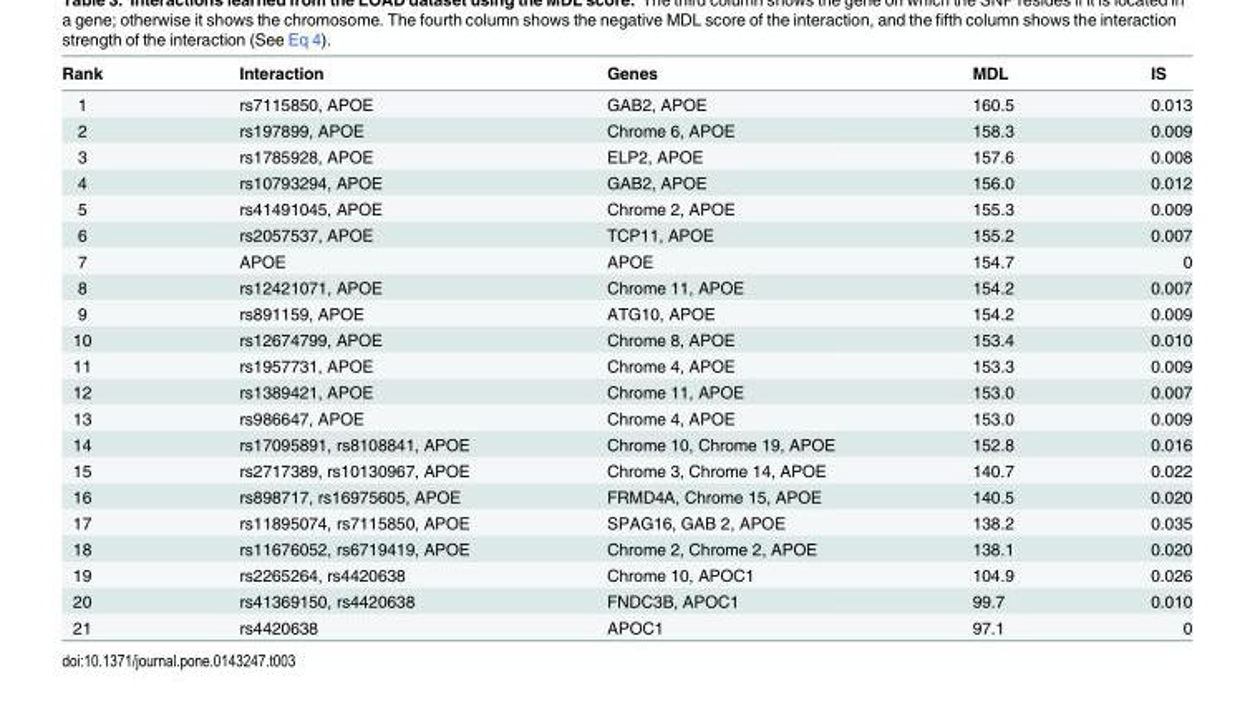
<table><thead><tr><td>Rank</td><td>Interaction</td><td>Genes</td><td>MDL</td><td>IS</td></tr></thead><tbody><tr><td>1</td><td>rs7115850, APOE</td><td>GAB2, APOE</td><td>160.5</td><td>0.013</td></tr><tr><td>2</td><td>rs197899, APOE</td><td>Chrome 6, APOE</td><td>158.3</td><td>0.009</td></tr><tr><td>3</td><td>rs1785928, APOE</td><td>ELP2, APOE</td><td>157.6</td><td>0.008</td></tr><tr><td>4</td><td>rs10793294, APOE</td><td>GAB2, APOE</td><td>156.0</td><td>0.012</td></tr><tr><td>5</td><td>rs41491045, APOE</td><td>Chrome 2, APOE</td><td>155.3</td><td>0.009</td></tr><tr><td>6</td><td>rs2057537, APOE</td><td>TCP11, APOE</td><td>155.2</td><td>0.007</td></tr><tr><td>7</td><td>APOE</td><td>APOE</td><td>154.7</td><td>0</td></tr><tr><td>8</td><td>rs12421071, APOE</td><td>Chrome 11, APOE</td><td>154.2</td><td>0.007</td></tr><tr><td>9</td><td>rs891159, APOE</td><td>ATG10, APOE</td><td>154.2</td><td>0.009</td></tr><tr><td>10</td><td>rs12674799, APOE</td><td>Chrome 8, APOE</td><td>153.4</td><td>0.010</td></tr><tr><td>11</td><td>rs1957731, APOE</td><td>Chrome 4, APOE</td><td>153.3</td><td>0.009</td></tr><tr><td>12</td><td>rs1389421, APOE</td><td>Chrome 11, APOE</td><td>153.0</td><td>0.007</td></tr><tr><td>13</td><td>rs986647, APOE</td><td>Chrome 4, APOE</td><td>153.0</td><td>0.009</td></tr><tr><td>14</td><td>rs17095891, rs8108841, APOE</td><td>Chrome 10, Chrome 19, APOE</td><td>152.8</td><td>0.016</td></tr><tr><td>15</td><td>rs2717389, rs10130967, APOE</td><td>Chrome 3, Chrome 14, APOE</td><td>140.7</td><td>0.022</td></tr><tr><td>16</td><td>rs898717, rs16975605, APOE</td><td>FRMD4A, Chrome 15, APOE</td><td>140.5</td><td>0.020</td></tr><tr><td>17</td><td>rs11895074, rs7115850, APOE</td><td>SPAG16, GAB 2, APOE</td><td>138.2</td><td>0.035</td></tr><tr><td>18</td><td>rs11676052, rs6719419, APOE</td><td>Chrome 2, Chrome 2, APOE</td><td>138.1</td><td>0.020</td></tr><tr><td>19</td><td>rs2265264, rs4420638</td><td>Chrome 10, APOC1</td><td>104.9</td><td>0.026</td></tr><tr><td>20</td><td>rs41369150, rs4420638</td><td>FNDC3B, APOC1</td><td>99.7</td><td>0.010</td></tr><tr><td>21</td><td>rs4420638</td><td>APOC1</td><td>97.1</td><td>0</td></tr></tbody></table>